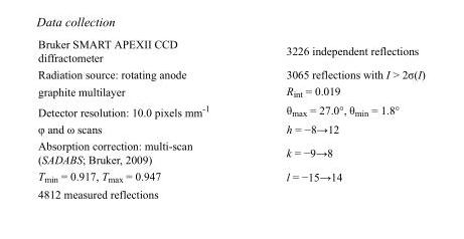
<table><tbody><tr><td>Bruker SMART APEXII CCD diffractometer</td><td>3226 independent reflections</td></tr><tr><td>Radiation source: rotating anode</td><td>3065 reflections with I &gt; 2σ(I)</td></tr><tr><td>graphite multilayer</td><td>R<sub>int</sub> = 0.019</td></tr><tr><td>Detector resolution: 10.0 pixels mm<sup>-1</sup></td><td>θ<sub>max</sub> = 27.0°, θ<sub>min</sub> = 1.8°</td></tr><tr><td>φ and ω scans</td><td>h = −8→12</td></tr><tr><td>Absorption correction: multi-scan (SADABS; Bruker, 2009)</td><td>k = −9→8</td></tr><tr><td>T<sub>min</sub> = 0.917, T<sub>max</sub> = 0.947</td><td>l = −15→14</td></tr><tr><td>4812 measured reflections</td><td></td></tr></tbody></table>